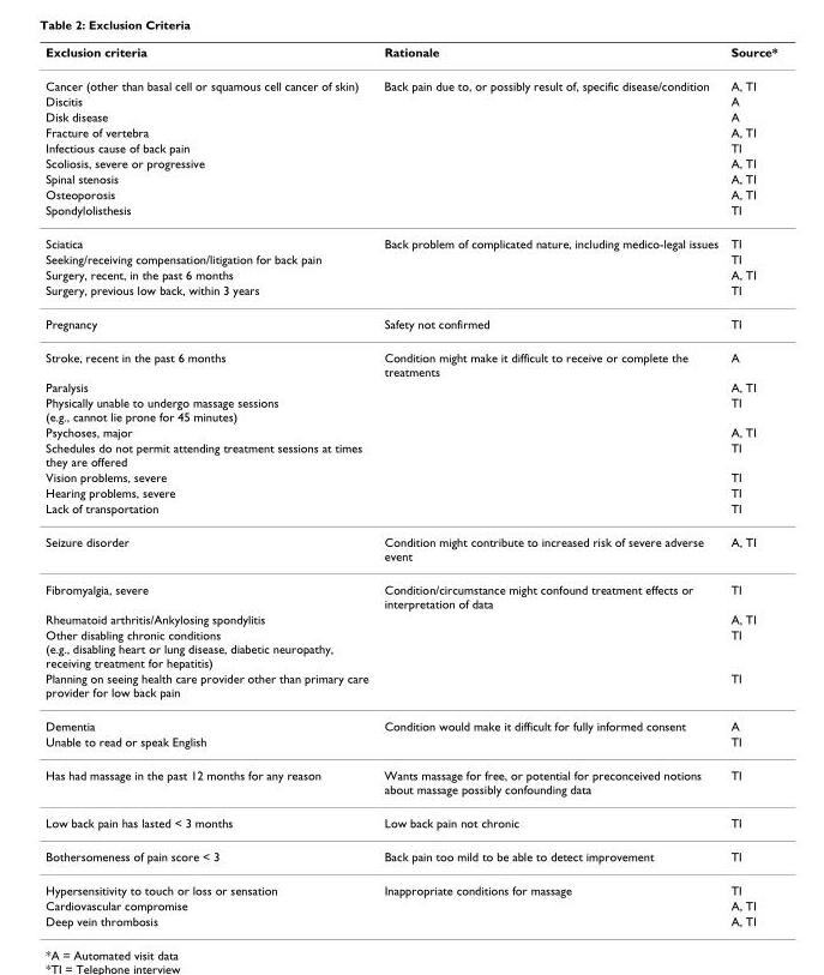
<table><thead><tr><td>Exclusion criteria</td><td>Rationale</td><td>Source*</td></tr></thead><tbody><tr><td>Cancer (other than basal cell or squamous cell cancer of skin)</td><td>Back pain due to, or possibly result of, specific disease/condition</td><td>A, TI</td></tr><tr><td>Discitis</td><td></td><td>A</td></tr><tr><td>Disk disease</td><td></td><td>A</td></tr><tr><td>Fracture of vertebra</td><td></td><td>A, TI</td></tr><tr><td>Infectious cause of back pain</td><td></td><td>TI</td></tr><tr><td>Scoliosis, severe or progressive</td><td></td><td>A, TI</td></tr><tr><td>Spinal stenosis</td><td></td><td>A, TI</td></tr><tr><td>Osteoporosis</td><td></td><td>A, TI</td></tr><tr><td>Spondylolisthesis</td><td></td><td>TI</td></tr><tr><td>Sciatica</td><td>Back problem of complicated nature, including medico-legal issues</td><td>TI</td></tr><tr><td>Seeking/receiving compensation/litigation for back pain</td><td></td><td>TI</td></tr><tr><td>Surgery, recent, in the past 6 months</td><td></td><td>A, TI</td></tr><tr><td>Surgery, previous low back, within 3 years</td><td></td><td>TI</td></tr><tr><td>Pregnancy</td><td>Safety not confirmed</td><td>TI</td></tr><tr><td>Stroke, recent in the past 6 months</td><td>Condition might make it difficult to receive or complete the treatments</td><td>A</td></tr><tr><td>Paralysis</td><td></td><td>A, TI</td></tr><tr><td>Physically unable to undergo massage sessions (e.g., cannot lie prone for 45 minutes)</td><td></td><td>TI</td></tr><tr><td>Psychoses, major</td><td></td><td>A, TI</td></tr><tr><td>Schedules do not permit attending treatment sessions at times they are offered</td><td></td><td>TI</td></tr><tr><td>Vision problems, severe</td><td></td><td>TI</td></tr><tr><td>Hearing problems, severe</td><td></td><td>TI</td></tr><tr><td>Lack of transportation</td><td></td><td>TI</td></tr><tr><td>Seizure disorder</td><td>Condition might contribute to increased risk of severe adverse event</td><td>A, TI</td></tr><tr><td>Fibromyalgia, severe</td><td>Condition/circumstance might confound treatment effects or interpretation of data</td><td>TI</td></tr><tr><td>Rheumatoid arthritis/Ankylosing spondylitis</td><td></td><td>A, TI</td></tr><tr><td>Other disabling chronic conditions (e.g., disabling heart or lung disease, diabetic neuropathy, receiving treatment for hepatitis)</td><td></td><td>TI</td></tr><tr><td>Planning on seeing health care provider other than primary care provider for low back pain</td><td></td><td>TI</td></tr><tr><td>Dementia</td><td>Condition would make it difficult for fully informed consent</td><td>A</td></tr><tr><td>Unable to read or speak English</td><td></td><td>TI</td></tr><tr><td>Has had massage in the past 12 months for any reason</td><td>Wants massage for free, or potential for preconceived notions about massage possibly confounding data</td><td>TI</td></tr><tr><td>Low back pain has lasted &lt; 3 months</td><td>Low back pain not chronic</td><td>TI</td></tr><tr><td>Bothersomeness of pain score &lt; 3</td><td>Back pain too mild to be able to detect improvement</td><td>TI</td></tr><tr><td>Hypersensitivity to touch or loss or sensation</td><td>Inappropriate conditions for massage</td><td>TI</td></tr><tr><td>Cardiovascular compromise</td><td></td><td>A, TI</td></tr><tr><td>Deep vein thrombosis</td><td></td><td>A, TI</td></tr></tbody></table>